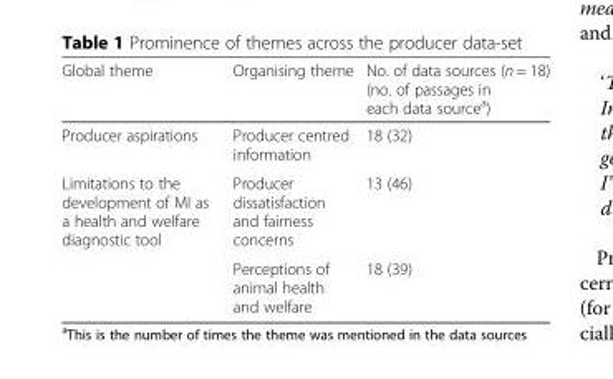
<table><thead><tr><td>Global theme</td><td>Organising theme</td><td>No. of data sources (n = 18) (no. of passages in each data source<sup>a</sup>)</td></tr></thead><tbody><tr><td>Producer aspirations</td><td>Producer centred information</td><td>18 (32)</td></tr><tr><td rowspan="2">Limitations to the development of MI as a health and welfare diagnostic tool</td><td>Producer dissatisfaction and fairness concerns</td><td>13 (46)</td></tr><tr><td>Perceptions of animal health and welfare</td><td>18 (39)</td></tr></tbody></table>